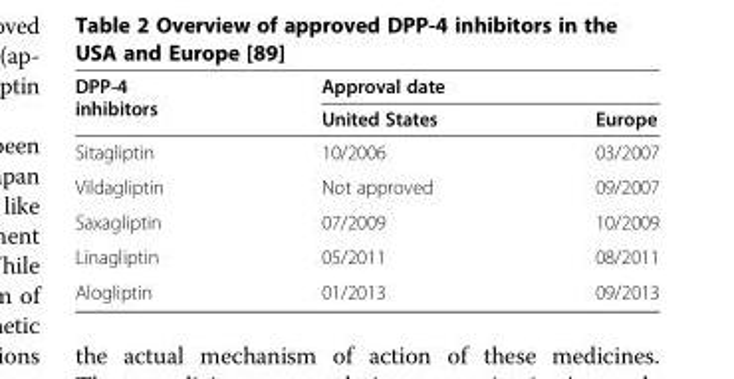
<table><thead><tr><td rowspan="2">DPP-4 inhibitors</td><td colspan="2">Approval date</td></tr><tr><td>United States</td><td>Europe</td></tr></thead><tbody><tr><td>Sitagliptin</td><td>10/2006</td><td>03/2007</td></tr><tr><td>Vildagliptin</td><td>Not approved</td><td>09/2007</td></tr><tr><td>Saxagliptin</td><td>07/2009</td><td>10/2009</td></tr><tr><td>Linagliptin</td><td>05/2011</td><td>08/2011</td></tr><tr><td>Alogliptin</td><td>01/2013</td><td>09/2013</td></tr></tbody></table>